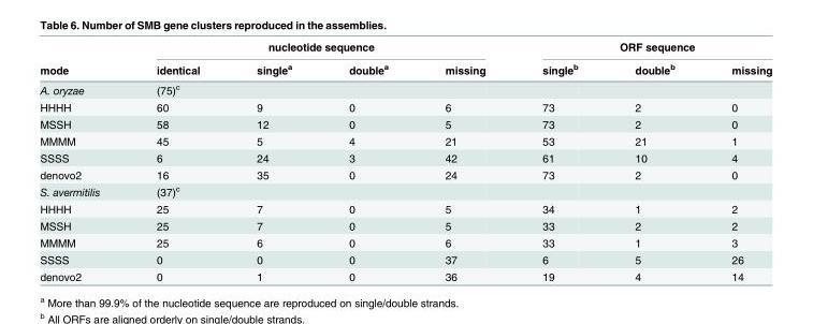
<table><thead><tr><td rowspan="2">mode</td><td colspan="4">nucleotide sequence</td><td colspan="3">ORF sequence</td></tr><tr><td>identical</td><td>single<sup>a</sup></td><td>double<sup>a</sup></td><td>missing</td><td>single<sup>b</sup></td><td>double<sup>b</sup></td><td>missing</td></tr></thead><tbody><tr><td>A. oryzae</td><td>(75)<sup>c</sup></td><td></td><td></td><td></td><td></td><td></td><td></td></tr><tr><td>HHHH</td><td>60</td><td>9</td><td>0</td><td>6</td><td>73</td><td>2</td><td>0</td></tr><tr><td>MSSH</td><td>58</td><td>12</td><td>0</td><td>5</td><td>73</td><td>2</td><td>0</td></tr><tr><td>MMMM</td><td>45</td><td>5</td><td>4</td><td>21</td><td>53</td><td>21</td><td>1</td></tr><tr><td>SSSS</td><td>6</td><td>24</td><td>3</td><td>42</td><td>61</td><td>10</td><td>4</td></tr><tr><td>denovo2</td><td>16</td><td>35</td><td>0</td><td>24</td><td>73</td><td>2</td><td>0</td></tr><tr><td>S. avermitilis</td><td>(37)<sup>c</sup></td><td></td><td></td><td></td><td></td><td></td><td></td></tr><tr><td>HHHH</td><td>25</td><td>7</td><td>0</td><td>5</td><td>34</td><td>1</td><td>2</td></tr><tr><td>MSSH</td><td>25</td><td>7</td><td>0</td><td>5</td><td>33</td><td>2</td><td>2</td></tr><tr><td>MMMM</td><td>25</td><td>6</td><td>0</td><td>6</td><td>33</td><td>1</td><td>3</td></tr><tr><td>SSSS</td><td>0</td><td>0</td><td>0</td><td>37</td><td>6</td><td>5</td><td>26</td></tr><tr><td>denovo2</td><td>0</td><td>1</td><td>0</td><td>36</td><td>19</td><td>4</td><td>14</td></tr></tbody></table>